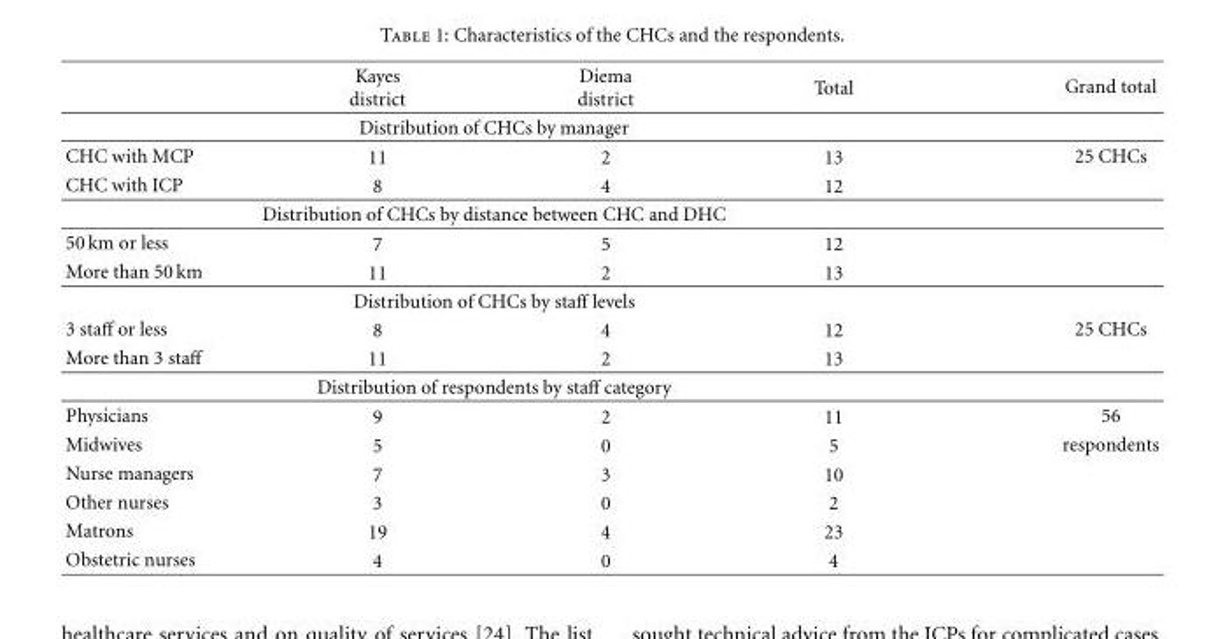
<table><thead><tr><td></td><td>Kayes district</td><td>Diema district</td><td>Total</td><td>Grand total</td></tr></thead><tbody><tr><td colspan="5">Distribution of CHCs by manager</td></tr><tr><td>CHC with MCP</td><td>11</td><td>2</td><td>13</td><td>25 CHCs</td></tr><tr><td>CHC with ICP</td><td>8</td><td>4</td><td>12</td><td></td></tr><tr><td colspan="5">Distribution of CHCs by distance between CHC and DHC</td></tr><tr><td>50 km or less</td><td>7</td><td>5</td><td>12</td><td></td></tr><tr><td>More than 50 km</td><td>11</td><td>2</td><td>13</td><td></td></tr><tr><td colspan="5">Distribution of CHCs by staff levels</td></tr><tr><td>3 staff or less</td><td>8</td><td>4</td><td>12</td><td>25 CHCs</td></tr><tr><td>More than 3 staff</td><td>11</td><td>2</td><td>13</td><td></td></tr><tr><td colspan="5">Distribution of respondents by staff category</td></tr><tr><td>Physicians</td><td>9</td><td>2</td><td>11</td><td>56</td></tr><tr><td>Midwives</td><td>5</td><td>0</td><td>5</td><td>respondents</td></tr><tr><td>Nurse managers</td><td>7</td><td>3</td><td>10</td><td></td></tr><tr><td>Other nurses</td><td>3</td><td>0</td><td>2</td><td></td></tr><tr><td>Matrons</td><td>19</td><td>4</td><td>23</td><td></td></tr><tr><td>Obstetric nurses</td><td>4</td><td>0</td><td>4</td><td></td></tr></tbody></table>